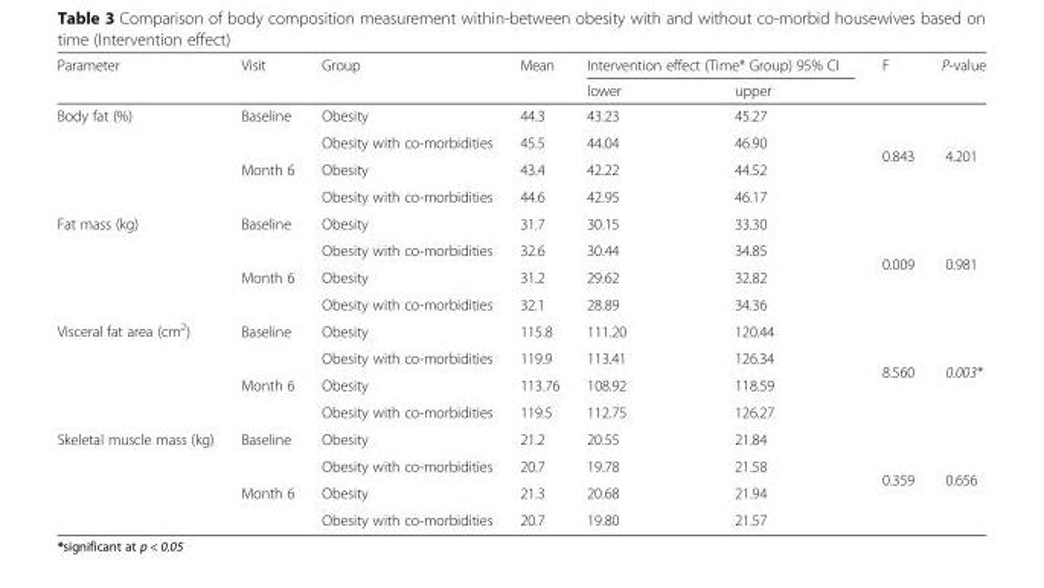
<table><thead><tr><td rowspan="2">Parameter</td><td rowspan="2">Visit</td><td rowspan="2">Group</td><td rowspan="2">Mean</td><td colspan="2">Intervention effect (Time* Group) 95% CI</td><td rowspan="2">F</td><td rowspan="2">P-value</td></tr><tr><td>lower</td><td>upper</td></tr></thead><tbody><tr><td rowspan="4">Body fat (%)</td><td>Baseline</td><td>Obesity</td><td>44.3</td><td>43.23</td><td>45.27</td><td rowspan="4">0.843</td><td rowspan="4">4.201</td></tr><tr><td></td><td>Obesity with co-morbidities</td><td>45.5</td><td>44.04</td><td>46.90</td></tr><tr><td>Month 6</td><td>Obesity</td><td>43.4</td><td>42.22</td><td>44.52</td></tr><tr><td></td><td>Obesity with co-morbidities</td><td>44.6</td><td>42.95</td><td>46.17</td></tr><tr><td rowspan="4">Fat mass (kg)</td><td>Baseline</td><td>Obesity</td><td>31.7</td><td>30.15</td><td>33.30</td><td rowspan="4">0.009</td><td rowspan="4">0.981</td></tr><tr><td></td><td>Obesity with co-morbidities</td><td>32.6</td><td>30.44</td><td>34.85</td></tr><tr><td>Month 6</td><td>Obesity</td><td>31.2</td><td>29.62</td><td>32.82</td></tr><tr><td></td><td>Obesity with co-morbidities</td><td>32.1</td><td>28.89</td><td>34.36</td></tr><tr><td rowspan="4">Visceral fat area (cm<sup>2</sup>)</td><td>Baseline</td><td>Obesity</td><td>115.8</td><td>111.20</td><td>120.44</td><td rowspan="4">8.560</td><td rowspan="4">0.003*</td></tr><tr><td></td><td>Obesity with co-morbidities</td><td>119.9</td><td>113.41</td><td>126.34</td></tr><tr><td>Month 6</td><td>Obesity</td><td>113.76</td><td>108.92</td><td>118.59</td></tr><tr><td></td><td>Obesity with co-morbidities</td><td>119.5</td><td>112.75</td><td>126.27</td></tr><tr><td rowspan="4">Skeletal muscle mass (kg)</td><td>Baseline</td><td>Obesity</td><td>21.2</td><td>20.55</td><td>21.84</td><td rowspan="4">0.359</td><td rowspan="4">0.656</td></tr><tr><td></td><td>Obesity with co-morbidities</td><td>20.7</td><td>19.78</td><td>21.58</td></tr><tr><td>Month 6</td><td>Obesity</td><td>21.3</td><td>20.68</td><td>21.94</td></tr><tr><td></td><td>Obesity with co-morbidities</td><td>20.7</td><td>19.80</td><td>21.57</td></tr></tbody></table>